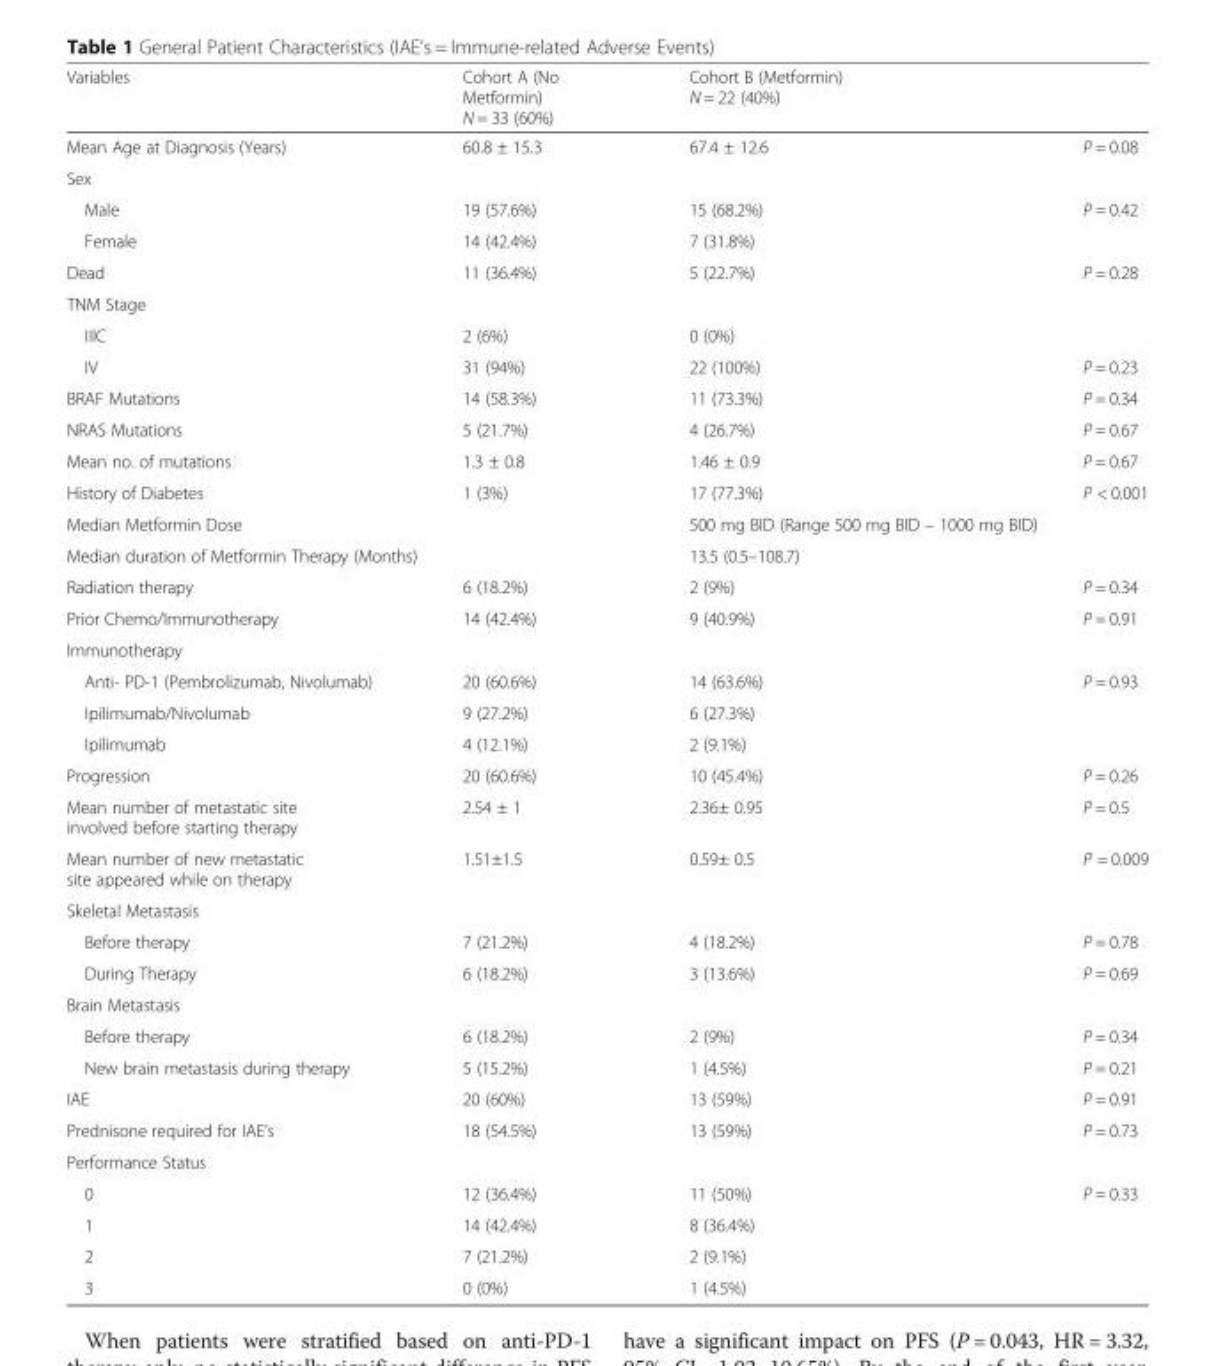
<table><thead><tr><td>Variables</td><td>Cohort A (No Metformin) N = 33 (60%)</td><td>Cohort B (Metformin) N = 22 (40%)</td><td></td></tr></thead><tbody><tr><td>Mean Age at Diagnosis (Years)</td><td>60.8 ± 15.3</td><td>67.4 ± 12.6</td><td>P = 0.08</td></tr><tr><td colspan="4">Sex</td></tr><tr><td>Male</td><td>19 (57.6%)</td><td>15 (68.2%)</td><td>P = 0.42</td></tr><tr><td>Female</td><td>14 (42.4%)</td><td>7 (31.8%)</td><td></td></tr><tr><td>Dead</td><td>11 (36.4%)</td><td>5 (22.7%)</td><td>P = 0.28</td></tr><tr><td colspan="4">TNM Stage</td></tr><tr><td>IIIC</td><td>2 (6%)</td><td>0 (0%)</td><td></td></tr><tr><td>IV</td><td>31 (94%)</td><td>22 (100%)</td><td>P = 0.23</td></tr><tr><td>BRAF Mutations</td><td>14 (58.3%)</td><td>11 (73.3%)</td><td>P = 0.34</td></tr><tr><td>NRAS Mutations</td><td>5 (21.7%)</td><td>4 (26.7%)</td><td>P = 0.67</td></tr><tr><td>Mean no. of mutations</td><td>1.3 ± 0.8</td><td>1.46 ± 0.9</td><td>P = 0.67</td></tr><tr><td>History of Diabetes</td><td>1 (3%)</td><td>17 (77.3%)</td><td>P &lt; 0.001</td></tr><tr><td>Median Metformin Dose</td><td></td><td>500 mg BID (Range 500 mg BID – 1000 mg BID)</td><td></td></tr><tr><td>Median duration of Metformin Therapy (Months)</td><td></td><td>13.5 (0.5–108.7)</td><td></td></tr><tr><td>Radiation therapy</td><td>6 (18.2%)</td><td>2 (9%)</td><td>P = 0.34</td></tr><tr><td>Prior Chemo/Immunotherapy</td><td>14 (42.4%)</td><td>9 (40.9%)</td><td>P = 0.91</td></tr><tr><td colspan="4">Immunotherapy</td></tr><tr><td>Anti- PD-1 (Pembrolizumab, Nivolumab)</td><td>20 (60.6%)</td><td>14 (63.6%)</td><td rowspan="3">P = 0.93</td></tr><tr><td>Ipilimumab/Nivolumab</td><td>9 (27.2%)</td><td>6 (27.3%)</td></tr><tr><td>Ipilimumab</td><td>4 (12.1%)</td><td>2 (9.1%)</td></tr><tr><td>Progression</td><td>20 (60.6%)</td><td>10 (45.4%)</td><td>P = 0.26</td></tr><tr><td>Mean number of metastatic site involved before starting therapy</td><td>2.54 ± 1</td><td>2.36± 0.95</td><td>P = 0.5</td></tr><tr><td>Mean number of new metastatic site appeared while on therapy</td><td>1.51±1.5</td><td>0.59± 0.5</td><td>P = 0.009</td></tr><tr><td colspan="4">Skeletal Metastasis</td></tr><tr><td>Before therapy</td><td>7 (21.2%)</td><td>4 (18.2%)</td><td>P = 0.78</td></tr><tr><td>During Therapy</td><td>6 (18.2%)</td><td>3 (13.6%)</td><td>P = 0.69</td></tr><tr><td colspan="4">Brain Metastasis</td></tr><tr><td>Before therapy</td><td>6 (18.2%)</td><td>2 (9%)</td><td>P = 0.34</td></tr><tr><td>New brain metastasis during therapy</td><td>5 (15.2%)</td><td>1 (4.5%)</td><td>P = 0.21</td></tr><tr><td>IAE</td><td>20 (60%)</td><td>13 (59%)</td><td>P = 0.91</td></tr><tr><td>Prednisone required for IAE’s</td><td>18 (54.5%)</td><td>13 (59%)</td><td>P = 0.73</td></tr><tr><td colspan="4">Performance Status</td></tr><tr><td>0</td><td>12 (36.4%)</td><td>11 (50%)</td><td rowspan="4">P = 0.33</td></tr><tr><td>1</td><td>14 (42.4%)</td><td>8 (36.4%)</td></tr><tr><td>2</td><td>7 (21.2%)</td><td>2 (9.1%)</td></tr><tr><td>3</td><td>0 (0%)</td><td>1 (4.5%)</td></tr></tbody></table>